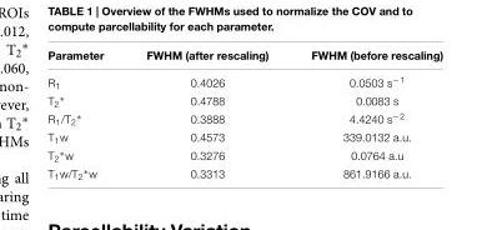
<table><thead><tr><td>Parameter</td><td>FWHM (after rescaling)</td><td>FWHM (before rescaling)</td></tr></thead><tbody><tr><td>R<sub>1</sub></td><td>0.4026</td><td>0.0503 s<sup>−1</sup></td></tr><tr><td>T<sub>2</sub>∗</td><td>0.4788</td><td>0.0083 s</td></tr><tr><td>R<sub>1</sub>/T<sub>2</sub>∗</td><td>0.3888</td><td>4.4240 s<sup>−2</sup></td></tr><tr><td>T<sub>1</sub>w</td><td>0.4573</td><td>339.0132 a.u.</td></tr><tr><td>T<sub>2</sub>∗w</td><td>0.3276</td><td>0.0764 a.u</td></tr><tr><td>T<sub>1</sub>w/T<sub>2</sub>∗w</td><td>0.3313</td><td>861.9166 a.u.</td></tr></tbody></table>